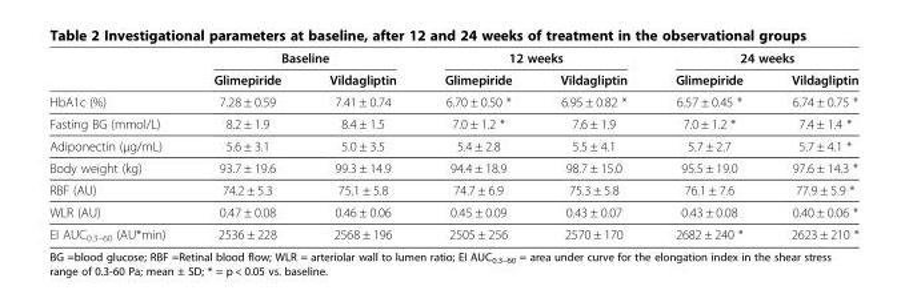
<table><thead><tr><td rowspan="2"></td><td colspan="2">Baseline</td><td colspan="2">12 weeks</td><td colspan="2">24 weeks</td></tr><tr><td>Glimepiride</td><td>Vildagliptin</td><td>Glimepiride</td><td>Vildagliptin</td><td>Glimepiride</td><td>Vildagliptin</td></tr></thead><tbody><tr><td>HbA1c (%)</td><td>7.28 ± 0.59</td><td>7.41 ± 0.74</td><td>6.70 ± 0.50 *</td><td>6.95 ± 0.82 *</td><td>6.57 ± 0.45 *</td><td>6.74 ± 0.75 *</td></tr><tr><td>Fasting BG (mmol/L)</td><td>8.2 ± 1.9</td><td>8.4 ± 1.5</td><td>7.0 ± 1.2 *</td><td>7.6 ± 1.9</td><td>7.0 ± 1.2 *</td><td>7.4 ± 1.4 *</td></tr><tr><td>Adiponectin (μg/mL)</td><td>5.6 ± 3.1</td><td>5.0 ± 3.5</td><td>5.4 ± 2.8</td><td>5.5 ± 4.1</td><td>5.7 ± 2.7</td><td>5.7 ± 4.1 *</td></tr><tr><td>Body weight (kg)</td><td>93.7 ± 19.6</td><td>99.3 ± 14.9</td><td>94.4 ± 18.9</td><td>98.7 ± 15.0</td><td>95.5 ± 19.0</td><td>97.6 ± 14.3 *</td></tr><tr><td>RBF (AU)</td><td>74.2 ± 5.3</td><td>75.1 ± 5.8</td><td>74.7 ± 6.9</td><td>75.3 ± 5.8</td><td>76.1 ± 7.6</td><td>77.9 ± 5.9 *</td></tr><tr><td>WLR (AU)</td><td>0.47 ± 0.08</td><td>0.46 ± 0.06</td><td>0.45 ± 0.09</td><td>0.43 ± 0.07</td><td>0.43 ± 0.08</td><td>0.40 ± 0.06 *</td></tr><tr><td>EI AUC<sub>0.3–60</sub> (AU*min)</td><td>2536 ± 228</td><td>2568 ± 196</td><td>2505 ± 256</td><td>2570 ± 170</td><td>2682 ± 240 *</td><td>2623 ± 210 *</td></tr></tbody></table>